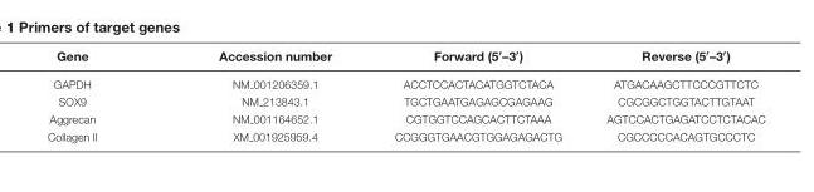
<table><thead><tr><td>Gene</td><td>Accession number</td><td>Forward (5′–3′)</td><td>Reverse (5′–3′)</td></tr></thead><tbody><tr><td>GAPDH</td><td>NM 001206359.1</td><td>ACCTCCACTACATGGTCTACA</td><td>ATGACAAGCTTCCCGTTCTC</td></tr><tr><td>SOX9</td><td>NM 213843.1</td><td>TGCTGAATGAGAGCGAGAAG</td><td>CGCGGCTGGTACTTGTAAT</td></tr><tr><td>Aggrecan</td><td>NM 001164652.1</td><td>CGTGGTCCAGCACTTCTAAA</td><td>AGTCCACTGAGATCCTCTACAC</td></tr><tr><td>Collagen II</td><td>XM 001925959.4</td><td>CCGGGTGAACGTGGAGAGACTG</td><td>CGCCCCCACAGTGCCCTC</td></tr></tbody></table>